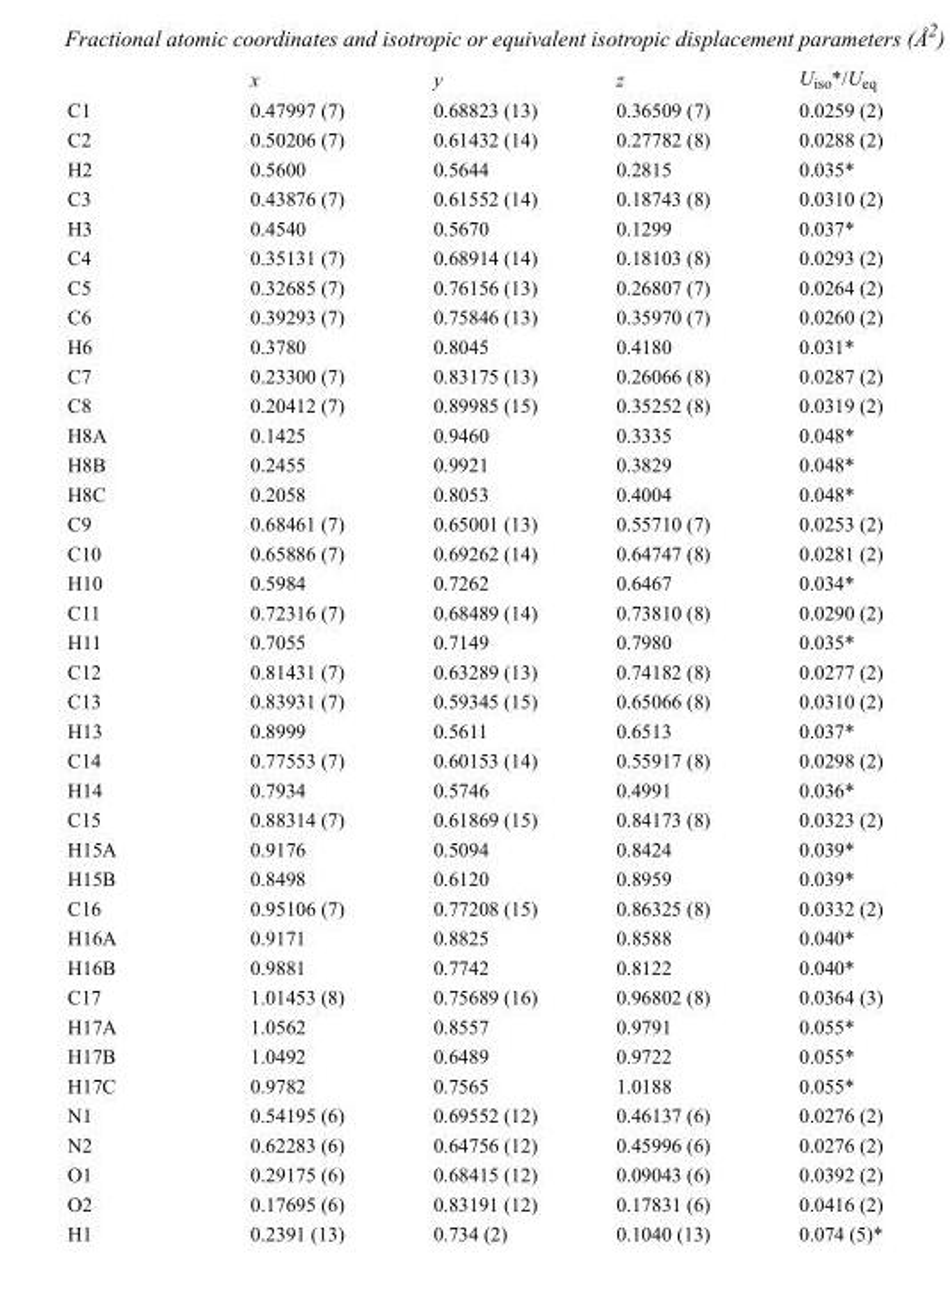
<table><thead><tr><td></td><td>x</td><td>y</td><td>z</td><td>U<sub>iso</sub>*/U<sub>eq</sub></td></tr></thead><tbody><tr><td>C1</td><td>0.47997 (7)</td><td>0.68823 (13)</td><td>0.36509 (7)</td><td>0.0259 (2)</td></tr><tr><td>C2</td><td>0.50206 (7)</td><td>0.61432 (14)</td><td>0.27782 (8)</td><td>0.0288 (2)</td></tr><tr><td>H2</td><td>0.5600</td><td>0.5644</td><td>0.2815</td><td>0.035*</td></tr><tr><td>C3</td><td>0.43876 (7)</td><td>0.61552 (14)</td><td>0.18743 (8)</td><td>0.0310 (2)</td></tr><tr><td>H3</td><td>0.4540</td><td>0.5670</td><td>0.1299</td><td>0.037*</td></tr><tr><td>C4</td><td>0.35131 (7)</td><td>0.68914 (14)</td><td>0.18103 (8)</td><td>0.0293 (2)</td></tr><tr><td>C5</td><td>0.32685 (7)</td><td>0.76156 (13)</td><td>0.26807 (7)</td><td>0.0264 (2)</td></tr><tr><td>C6</td><td>0.39293 (7)</td><td>0.75846 (13)</td><td>0.35970 (7)</td><td>0.0260 (2)</td></tr><tr><td>H6</td><td>0.3780</td><td>0.8045</td><td>0.4180</td><td>0.031*</td></tr><tr><td>C7</td><td>0.23300 (7)</td><td>0.83175 (13)</td><td>0.26066 (8)</td><td>0.0287 (2)</td></tr><tr><td>C8</td><td>0.20412 (7)</td><td>0.89985 (15)</td><td>0.35252 (8)</td><td>0.0319 (2)</td></tr><tr><td>H8A</td><td>0.1425</td><td>0.9460</td><td>0.3335</td><td>0.048*</td></tr><tr><td>H8B</td><td>0.2455</td><td>0.9921</td><td>0.3829</td><td>0.048*</td></tr><tr><td>H8C</td><td>0.2058</td><td>0.8053</td><td>0.4004</td><td>0.048*</td></tr><tr><td>C9</td><td>0.68461 (7)</td><td>0.65001 (13)</td><td>0.55710 (7)</td><td>0.0253 (2)</td></tr><tr><td>C10</td><td>0.65886 (7)</td><td>0.69262 (14)</td><td>0.64747 (8)</td><td>0.0281 (2)</td></tr><tr><td>H10</td><td>0.5984</td><td>0.7262</td><td>0.6467</td><td>0.034*</td></tr><tr><td>C11</td><td>0.72316 (7)</td><td>0.68489 (14)</td><td>0.73810 (8)</td><td>0.0290 (2)</td></tr><tr><td>H11</td><td>0.7055</td><td>0.7149</td><td>0.7980</td><td>0.035*</td></tr><tr><td>C12</td><td>0.81431 (7)</td><td>0.63289 (13)</td><td>0.74182 (8)</td><td>0.0277 (2)</td></tr><tr><td>C13</td><td>0.83931 (7)</td><td>0.59345 (15)</td><td>0.65066 (8)</td><td>0.0310 (2)</td></tr><tr><td>H13</td><td>0.8999</td><td>0.5611</td><td>0.6513</td><td>0.037*</td></tr><tr><td>C14</td><td>0.77553 (7)</td><td>0.60153 (14)</td><td>0.55917 (8)</td><td>0.0298 (2)</td></tr><tr><td>H14</td><td>0.7934</td><td>0.5746</td><td>0.4991</td><td>0.036*</td></tr><tr><td>C15</td><td>0.88314 (7)</td><td>0.61869 (15)</td><td>0.84173 (8)</td><td>0.0323 (2)</td></tr><tr><td>H15A</td><td>0.9176</td><td>0.5094</td><td>0.8424</td><td>0.039*</td></tr><tr><td>H15B</td><td>0.8498</td><td>0.6120</td><td>0.8959</td><td>0.039*</td></tr><tr><td>C16</td><td>0.95106 (7)</td><td>0.77208 (15)</td><td>0.86325 (8)</td><td>0.0332 (2)</td></tr><tr><td>H16A</td><td>0.9171</td><td>0.8825</td><td>0.8588</td><td>0.040*</td></tr><tr><td>H16B</td><td>0.9881</td><td>0.7742</td><td>0.8122</td><td>0.040*</td></tr><tr><td>C17</td><td>1.01453 (8)</td><td>0.75689 (16)</td><td>0.96802 (8)</td><td>0.0364 (3)</td></tr><tr><td>H17A</td><td>1.0562</td><td>0.8557</td><td>0.9791</td><td>0.055*</td></tr><tr><td>H17B</td><td>1.0492</td><td>0.6489</td><td>0.9722</td><td>0.055*</td></tr><tr><td>H17C</td><td>0.9782</td><td>0.7565</td><td>1.0188</td><td>0.055*</td></tr><tr><td>N1</td><td>0.54195 (6)</td><td>0.69552 (12)</td><td>0.46137 (6)</td><td>0.0276 (2)</td></tr><tr><td>N2</td><td>0.62283 (6)</td><td>0.64756 (12)</td><td>0.45996 (6)</td><td>0.0276 (2)</td></tr><tr><td>O1</td><td>0.29175 (6)</td><td>0.68415 (12)</td><td>0.09043 (6)</td><td>0.0392 (2)</td></tr><tr><td>O2</td><td>0.17695 (6)</td><td>0.83191 (12)</td><td>0.17831 (6)</td><td>0.0416 (2)</td></tr><tr><td>H1</td><td>0.2391 (13)</td><td>0.734 (2)</td><td>0.1040 (13)</td><td>0.074 (5)*</td></tr></tbody></table>